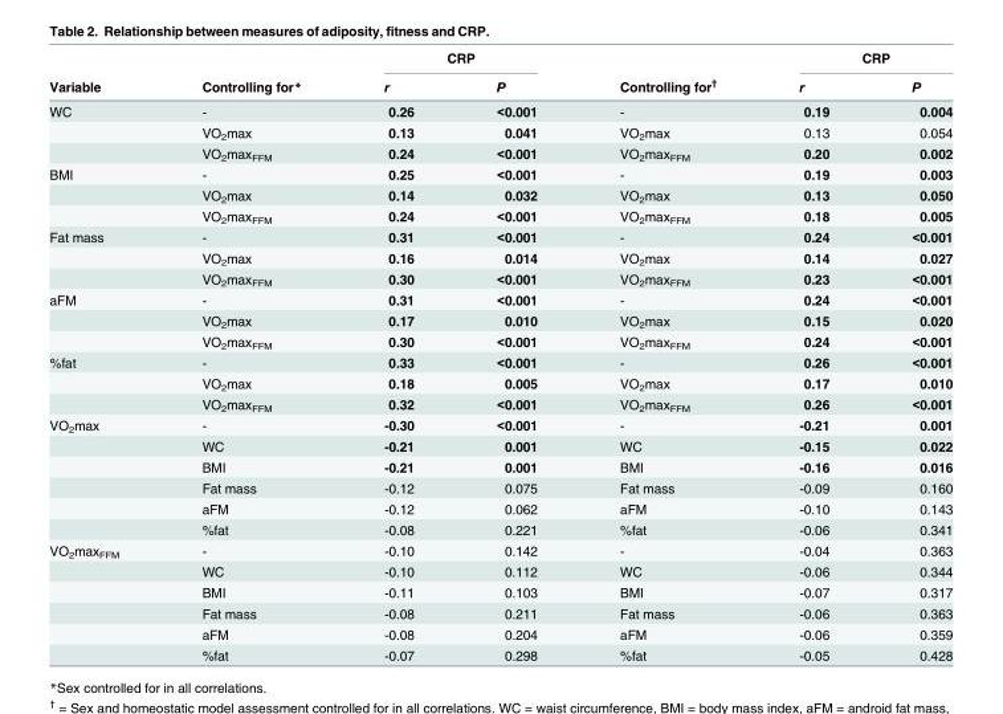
<table><thead><tr><td rowspan="2">Variable</td><td rowspan="2">Controlling for*</td><td colspan="2">CRP</td><td rowspan="2">Controlling for<sup>†</sup></td><td colspan="2">CRP</td></tr><tr><td>r</td><td>P</td><td>r</td><td>P</td></tr></thead><tbody><tr><td rowspan="3">WC</td><td>-</td><td>0.26</td><td>&lt;0.001</td><td>-</td><td>0.19</td><td>0.004</td></tr><tr><td>VO<sub>2</sub>max</td><td>0.13</td><td>0.041</td><td>VO<sub>2</sub>max</td><td>0.13</td><td>0.054</td></tr><tr><td>VO<sub>2</sub>max<sub>FFM</sub></td><td>0.24</td><td>&lt;0.001</td><td>VO<sub>2</sub>max<sub>FFM</sub></td><td>0.20</td><td>0.002</td></tr><tr><td rowspan="3">BMI</td><td>-</td><td>0.25</td><td>&lt;0.001</td><td>-</td><td>0.19</td><td>0.003</td></tr><tr><td>VO<sub>2</sub>max</td><td>0.14</td><td>0.032</td><td>VO<sub>2</sub>max</td><td>0.13</td><td>0.050</td></tr><tr><td>VO<sub>2</sub>max<sub>FFM</sub></td><td>0.24</td><td>&lt;0.001</td><td>VO<sub>2</sub>max<sub>FFM</sub></td><td>0.18</td><td>0.005</td></tr><tr><td rowspan="3">Fat mass</td><td>-</td><td>0.31</td><td>&lt;0.001</td><td>-</td><td>0.24</td><td>&lt;0.001</td></tr><tr><td>VO<sub>2</sub>max</td><td>0.16</td><td>0.014</td><td>VO<sub>2</sub>max</td><td>0.14</td><td>0.027</td></tr><tr><td>VO<sub>2</sub>max<sub>FFM</sub></td><td>0.30</td><td>&lt;0.001</td><td>VO<sub>2</sub>max<sub>FFM</sub></td><td>0.23</td><td>&lt;0.001</td></tr><tr><td rowspan="3">aFM</td><td>-</td><td>0.31</td><td>&lt;0.001</td><td>-</td><td>0.24</td><td>&lt;0.001</td></tr><tr><td>VO<sub>2</sub>max</td><td>0.17</td><td>0.010</td><td>VO<sub>2</sub>max</td><td>0.15</td><td>0.020</td></tr><tr><td>VO<sub>2</sub>max<sub>FFM</sub></td><td>0.30</td><td>&lt;0.001</td><td>VO<sub>2</sub>max<sub>FFM</sub></td><td>0.24</td><td>&lt;0.001</td></tr><tr><td rowspan="3">%fat</td><td>-</td><td>0.33</td><td>&lt;0.001</td><td>-</td><td>0.26</td><td>&lt;0.001</td></tr><tr><td>VO<sub>2</sub>max</td><td>0.18</td><td>0.005</td><td>VO<sub>2</sub>max</td><td>0.17</td><td>0.010</td></tr><tr><td>VO<sub>2</sub>max<sub>FFM</sub></td><td>0.32</td><td>&lt;0.001</td><td>VO<sub>2</sub>max<sub>FFM</sub></td><td>0.26</td><td>&lt;0.001</td></tr><tr><td rowspan="6">VO<sub>2</sub>max</td><td>-</td><td>-0.30</td><td>&lt;0.001</td><td>-</td><td>-0.21</td><td>0.001</td></tr><tr><td>WC</td><td>-0.21</td><td>0.001</td><td>WC</td><td>-0.15</td><td>0.022</td></tr><tr><td>BMI</td><td>-0.21</td><td>0.001</td><td>BMI</td><td>-0.16</td><td>0.016</td></tr><tr><td>Fat mass</td><td>-0.12</td><td>0.075</td><td>Fat mass</td><td>-0.09</td><td>0.160</td></tr><tr><td>aFM</td><td>-0.12</td><td>0.062</td><td>aFM</td><td>-0.10</td><td>0.143</td></tr><tr><td>%fat</td><td>-0.08</td><td>0.221</td><td>%fat</td><td>-0.06</td><td>0.341</td></tr><tr><td rowspan="6">VO<sub>2</sub>max<sub>FFM</sub></td><td>-</td><td>-0.10</td><td>0.142</td><td>-</td><td>-0.04</td><td>0.363</td></tr><tr><td>WC</td><td>-0.10</td><td>0.112</td><td>WC</td><td>-0.06</td><td>0.344</td></tr><tr><td>BMI</td><td>-0.11</td><td>0.103</td><td>BMI</td><td>-0.07</td><td>0.317</td></tr><tr><td>Fat mass</td><td>-0.08</td><td>0.211</td><td>Fat mass</td><td>-0.06</td><td>0.363</td></tr><tr><td>aFM</td><td>-0.08</td><td>0.204</td><td>aFM</td><td>-0.06</td><td>0.359</td></tr><tr><td>%fat</td><td>-0.07</td><td>0.298</td><td>%fat</td><td>-0.05</td><td>0.428</td></tr></tbody></table>